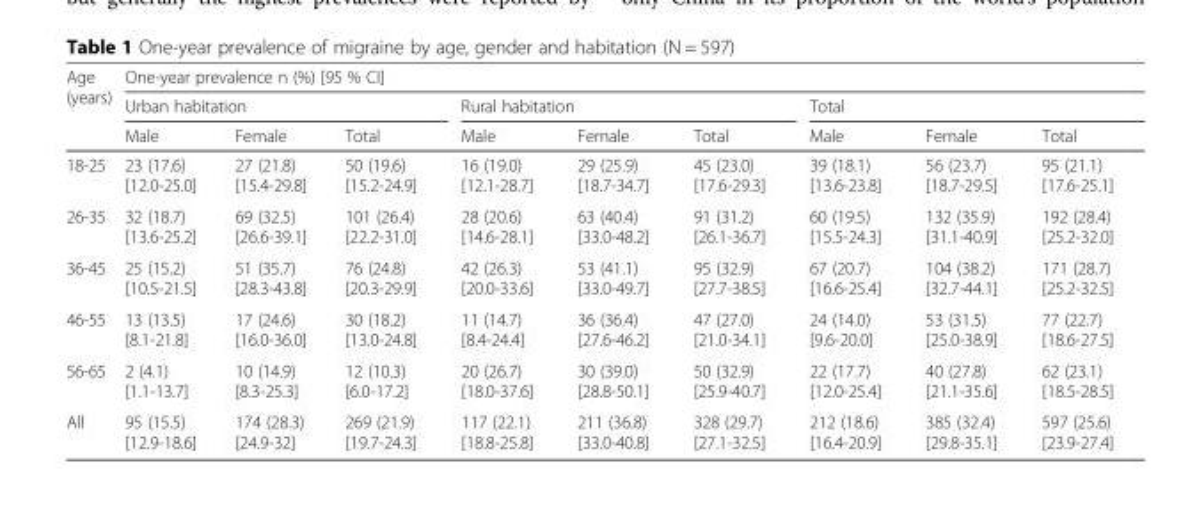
<table><thead><tr><td rowspan="3">Age (years)</td><td colspan="9">One-year prevalence n (%) [95 % CI]</td></tr><tr><td colspan="3">Urban habitation</td><td colspan="3">Rural habitation</td><td colspan="3">Total</td></tr><tr><td>Male</td><td>Female</td><td>Total</td><td>Male</td><td>Female</td><td>Total</td><td>Male</td><td>Female</td><td>Total</td></tr></thead><tbody><tr><td>18-25</td><td>23 (17.6) [12.0-25.0]</td><td>27 (21.8) [15.4-29.8]</td><td>50 (19.6) [15.2-24.9]</td><td>16 (19.0) [12.1-28.7]</td><td>29 (25.9) [18.7-34.7]</td><td>45 (23.0) [17.6-29.3]</td><td>39 (18.1) [13.6-23.8]</td><td>56 (23.7) [18.7-29.5]</td><td>95 (21.1) [17.6-25.1]</td></tr><tr><td>26-35</td><td>32 (18.7) [13.6-25.2]</td><td>69 (32.5) [26.6-39.1]</td><td>101 (26.4) [22.2-31.0]</td><td>28 (20.6) [14.6-28.1]</td><td>63 (40.4) [33.0-48.2]</td><td>91 (31.2) [26.1-36.7]</td><td>60 (19.5) [15.5-24.3]</td><td>132 (35.9) [31.1-40.9]</td><td>192 (28.4) [25.2-32.0]</td></tr><tr><td>36-45</td><td>25 (15.2) [10.5-21.5]</td><td>51 (35.7) [28.3-43.8]</td><td>76 (24.8) [20.3-29.9]</td><td>42 (26.3) [20.0-33.6]</td><td>53 (41.1) [33.0-49.7]</td><td>95 (32.9) [27.7-38.5]</td><td>67 (20.7) [16.6-25.4]</td><td>104 (38.2) [32.7-44.1]</td><td>171 (28.7) [25.2-32.5]</td></tr><tr><td>46-55</td><td>13 (13.5) [8.1-21.8]</td><td>17 (24.6) [16.0-36.0]</td><td>30 (18.2) [13.0-24.8]</td><td>11 (14.7) [8.4-24.4]</td><td>36 (36.4) [27.6-46.2]</td><td>47 (27.0) [21.0-34.1]</td><td>24 (14.0) [9.6-20.0]</td><td>53 (31.5) [25.0-38.9]</td><td>77 (22.7) [18.6-27.5]</td></tr><tr><td>56-65</td><td>2 (4.1) [1.1-13.7]</td><td>10 (14.9) [8.3-25.3]</td><td>12 (10.3) [6.0-17.2]</td><td>20 (26.7) [18.0-37.6]</td><td>30 (39.0) [28.8-50.1]</td><td>50 (32.9) [25.9-40.7]</td><td>22 (17.7) [12.0-25.4]</td><td>40 (27.8) [21.1-35.6]</td><td>62 (23.1) [18.5-28.5]</td></tr><tr><td>All</td><td>95 (15.5) [12.9-18.6]</td><td>174 (28.3) [24.9-32]</td><td>269 (21.9) [19.7-24.3]</td><td>117 (22.1) [18.8-25.8]</td><td>211 (36.8) [33.0-40.8]</td><td>328 (29.7) [27.1-32.5]</td><td>212 (18.6) [16.4-20.9]</td><td>385 (32.4) [29.8-35.1]</td><td>597 (25.6) [23.9-27.4]</td></tr></tbody></table>